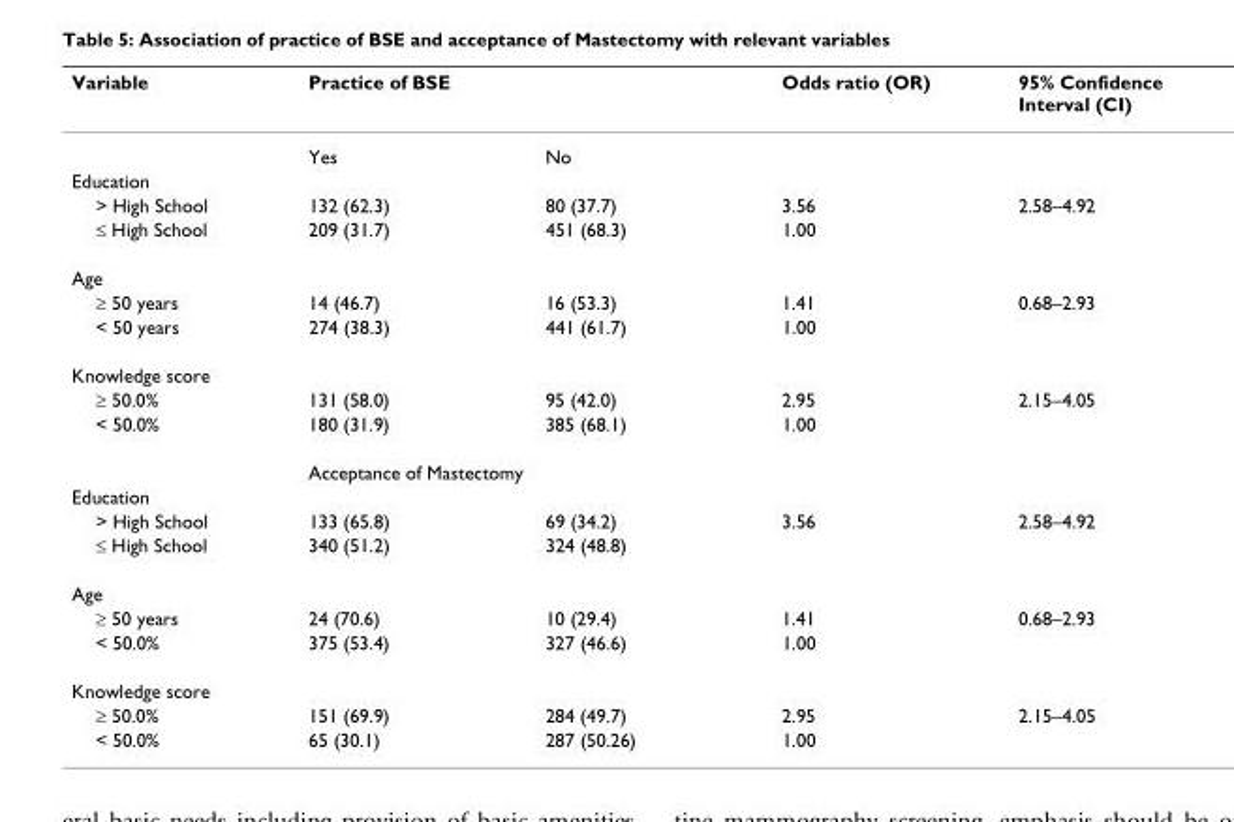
<table><thead><tr><td rowspan="2">Variable</td><td colspan="2">Practice of BSE</td><td rowspan="2">Odds ratio (OR)</td><td rowspan="2">95% Confidence Interval (CI)</td></tr><tr><td>Yes</td><td>No</td></tr></thead><tbody><tr><td colspan="5">Education</td></tr><tr><td>&gt; High School</td><td>132 (62.3)</td><td>80 (37.7)</td><td>3.56</td><td>2.58–4.92</td></tr><tr><td>≤ High School</td><td>209 (31.7)</td><td>451 (68.3)</td><td>1.00</td><td></td></tr><tr><td colspan="5">Age</td></tr><tr><td>≥ 50 years</td><td>14 (46.7)</td><td>16 (53.3)</td><td>1.41</td><td>0.68–2.93</td></tr><tr><td>&lt; 50 years</td><td>274 (38.3)</td><td>441 (61.7)</td><td>1.00</td><td></td></tr><tr><td colspan="5">Knowledge score</td></tr><tr><td>≥ 50.0%</td><td>131 (58.0)</td><td>95 (42.0)</td><td>2.95</td><td>2.15–4.05</td></tr><tr><td rowspan="2">&lt; 50.0%</td><td>180 (31.9)</td><td>385 (68.1)</td><td>1.00</td><td></td></tr><tr><td colspan="4">Acceptance of Mastectomy</td></tr><tr><td colspan="5">Education</td></tr><tr><td>&gt; High School</td><td>133 (65.8)</td><td>69 (34.2)</td><td>3.56</td><td>2.58–4.92</td></tr><tr><td>≤ High School</td><td>340 (51.2)</td><td>324 (48.8)</td><td></td><td></td></tr><tr><td colspan="5">Age</td></tr><tr><td>≥ 50 years</td><td>24 (70.6)</td><td>10 (29.4)</td><td>1.41</td><td>0.68–2.93</td></tr><tr><td>&lt; 50.0%</td><td>375 (53.4)</td><td>327 (46.6)</td><td>1.00</td><td></td></tr><tr><td colspan="5">Knowledge score</td></tr><tr><td>≥ 50.0%</td><td>151 (69.9)</td><td>284 (49.7)</td><td>2.95</td><td>2.15–4.05</td></tr><tr><td>&lt; 50.0%</td><td>65 (30.1)</td><td>287 (50.26)</td><td>1.00</td><td></td></tr></tbody></table>